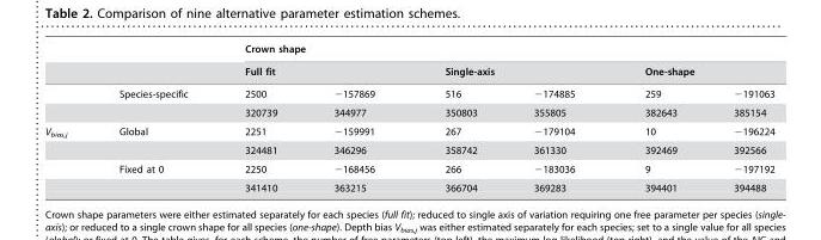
<table><thead><tr><td rowspan="3"></td><td rowspan="3">Species-specific</td><td colspan="6">Crown shape</td></tr><tr><td colspan="2">Full fit</td><td colspan="2">Single-axis</td><td colspan="2">One-shape</td></tr><tr><td>2500</td><td>−157869</td><td>516</td><td>−174885</td><td>259</td><td>−191063</td></tr></thead><tbody><tr><td></td><td></td><td>320739</td><td>344977</td><td>350803</td><td>355805</td><td>382643</td><td>385154</td></tr><tr><td rowspan="4">V<sub>bias,j</sub></td><td>Global</td><td>2251</td><td>−159991</td><td>267</td><td>−179104</td><td>10</td><td>−196224</td></tr><tr><td></td><td>324481</td><td>346296</td><td>358742</td><td>361330</td><td>392469</td><td>392566</td></tr><tr><td>Fixed at 0</td><td>2250</td><td>−168456</td><td>266</td><td>−183036</td><td>9</td><td>−197192</td></tr><tr><td></td><td>341410</td><td>363215</td><td>366704</td><td>369283</td><td>394401</td><td>394488</td></tr></tbody></table>